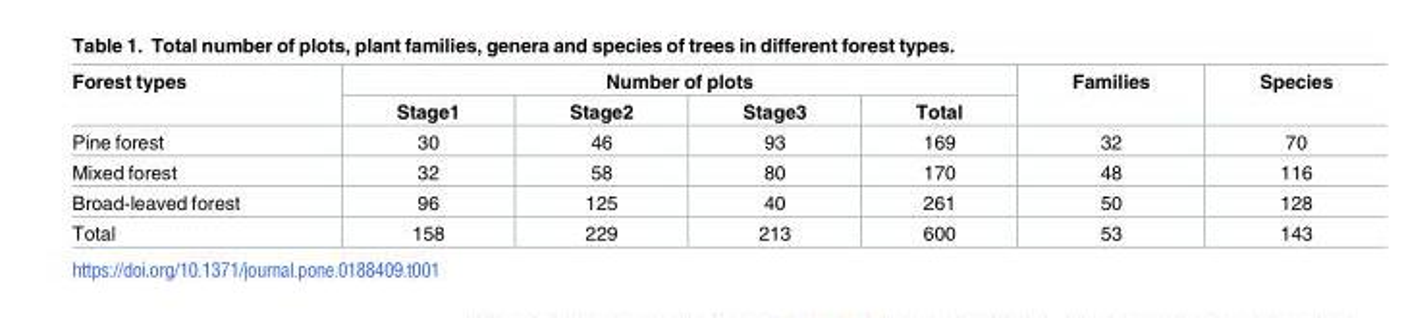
<table><thead><tr><td rowspan="2">Forest types</td><td colspan="4">Number of plots</td><td rowspan="2">Families</td><td rowspan="2">Species</td></tr><tr><td>Stage1</td><td>Stage2</td><td>Stage3</td><td>Total</td></tr></thead><tbody><tr><td>Pine forest</td><td>30</td><td>46</td><td>93</td><td>169</td><td>32</td><td>70</td></tr><tr><td>Mixed forest</td><td>32</td><td>58</td><td>80</td><td>170</td><td>48</td><td>116</td></tr><tr><td>Broad-leaved forest</td><td>96</td><td>125</td><td>40</td><td>261</td><td>50</td><td>128</td></tr><tr><td>Total</td><td>158</td><td>229</td><td>213</td><td>600</td><td>53</td><td>143</td></tr></tbody></table>